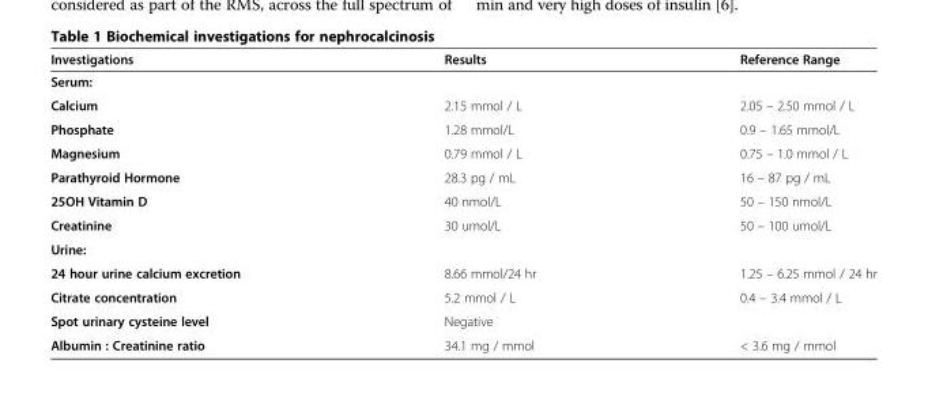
<table><thead><tr><td>Investigations</td><td>Results</td><td>Reference Range</td></tr></thead><tbody><tr><td colspan="3">Serum:</td></tr><tr><td>Calcium</td><td>2.15 mmol / L</td><td>2.05 – 2.50 mmol / L</td></tr><tr><td>Phosphate</td><td>1.28 mmol/L</td><td>0.9 – 1.65 mmol/L</td></tr><tr><td>Magnesium</td><td>0.79 mmol / L</td><td>0.75 – 1.0 mmol / L</td></tr><tr><td>Parathyroid Hormone</td><td>28.3 pg / mL</td><td>16 – 87 pg / mL</td></tr><tr><td>25OH Vitamin D</td><td>40 nmol/L</td><td>50 – 150 nmol/L</td></tr><tr><td>Creatinine</td><td>30 umol/L</td><td>50 – 100 umol/L</td></tr><tr><td colspan="3">Urine:</td></tr><tr><td>24 hour urine calcium excretion</td><td>8.66 mmol/24 hr</td><td>1.25 – 6.25 mmol / 24 hr</td></tr><tr><td>Citrate concentration</td><td>5.2 mmol / L</td><td>0.4 – 3.4 mmol / L</td></tr><tr><td>Spot urinary cysteine level</td><td>Negative</td><td></td></tr><tr><td>Albumin : Creatinine ratio</td><td>34.1 mg / mmol</td><td>&lt; 3.6 mg / mmol</td></tr></tbody></table>